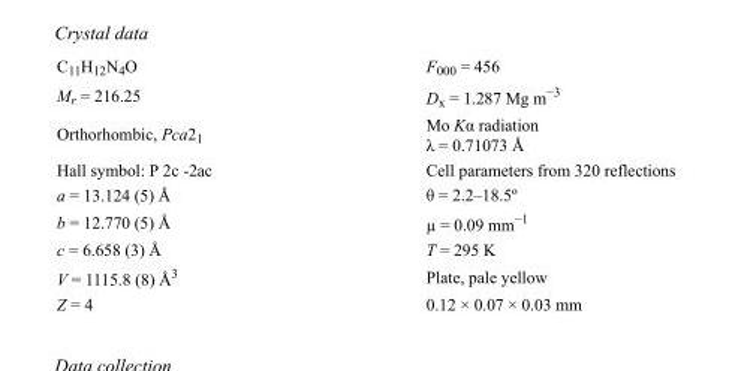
<table><tbody><tr><td>C<sub>11</sub>H<sub>12</sub>N<sub>4</sub>O</td><td>F000 = 456</td></tr><tr><td>M<sub>r</sub> = 216.25</td><td>D<sub>x</sub> = 1.287 Mg m<sup>−3</sup></td></tr><tr><td>Orthorhombic, Pca2<sub>1</sub></td><td>Mo Kα radiation λ = 0.71073 Å</td></tr><tr><td>Hall symbol: P 2c -2ac</td><td>Cell parameters from 320 reflections</td></tr><tr><td>a = 13.124 (5) Å</td><td>θ = 2.2–18.5º</td></tr><tr><td>b = 12.770 (5) Å</td><td>µ = 0.09 mm<sup>−1</sup></td></tr><tr><td>c = 6.658 (3) Å</td><td>T = 295 K</td></tr><tr><td>V = 1115.8 (8) Å<sup>3</sup></td><td>Plate, pale yellow</td></tr><tr><td>Z = 4</td><td>0.12 × 0.07 × 0.03 mm</td></tr></tbody></table>